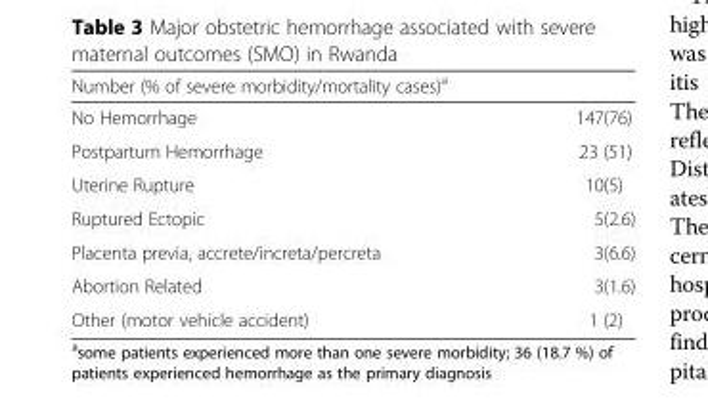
<table><thead><tr><td colspan="2">Number (% of severe morbidity/mortality cases)<sup>a</sup></td></tr><tr><td>No Hemorrhage</td><td>147(76)</td></tr></thead><tbody><tr><td>Postpartum Hemorrhage</td><td>23 (51)</td></tr><tr><td>Uterine Rupture</td><td>10(5)</td></tr><tr><td>Ruptured Ectopic</td><td>5(2.6)</td></tr><tr><td>Placenta previa, accrete/increta/percreta</td><td>3(6.6)</td></tr><tr><td>Abortion Related</td><td>3(1.6)</td></tr><tr><td>Other (motor vehicle accident)</td><td>1 (2)</td></tr></tbody></table>